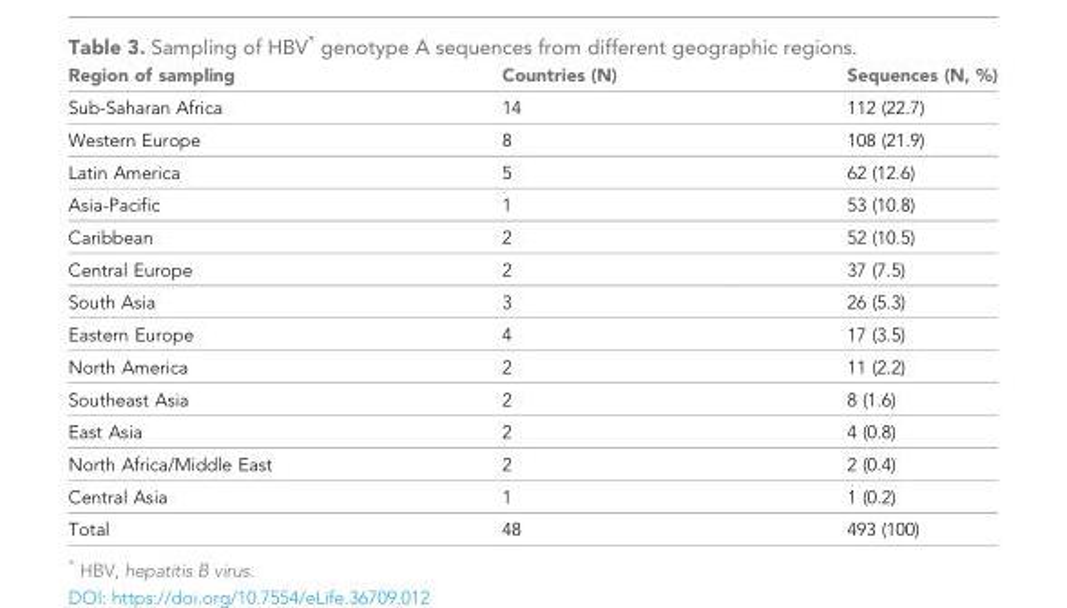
<table><thead><tr><td>Region of sampling</td><td>Countries (N)</td><td>Sequences (N, %)</td></tr></thead><tbody><tr><td>Sub-Saharan Africa</td><td>14</td><td>112 (22.7)</td></tr><tr><td>Western Europe</td><td>8</td><td>108 (21.9)</td></tr><tr><td>Latin America</td><td>5</td><td>62 (12.6)</td></tr><tr><td>Asia-Pacific</td><td>1</td><td>53 (10.8)</td></tr><tr><td>Caribbean</td><td>2</td><td>52 (10.5)</td></tr><tr><td>Central Europe</td><td>2</td><td>37 (7.5)</td></tr><tr><td>South Asia</td><td>3</td><td>26 (5.3)</td></tr><tr><td>Eastern Europe</td><td>4</td><td>17 (3.5)</td></tr><tr><td>North America</td><td>2</td><td>11 (2.2)</td></tr><tr><td>Southeast Asia</td><td>2</td><td>8 (1.6)</td></tr><tr><td>East Asia</td><td>2</td><td>4 (0.8)</td></tr><tr><td>North Africa/Middle East</td><td>2</td><td>2 (0.4)</td></tr><tr><td>Central Asia</td><td>1</td><td>1 (0.2)</td></tr><tr><td>Total</td><td>48</td><td>493 (100)</td></tr></tbody></table>